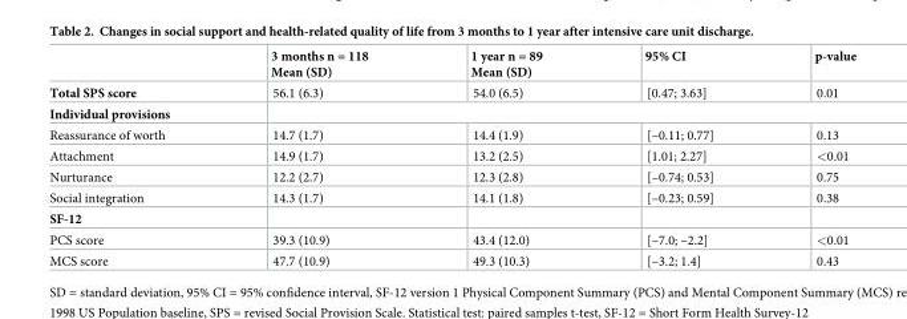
<table><thead><tr><td></td><td>3 months n = 118 Mean (SD)</td><td>1 year n = 89 Mean (SD)</td><td>95% CI</td><td>p-value</td></tr></thead><tbody><tr><td>Total SPS score</td><td>56.1 (6.3)</td><td>54.0 (6.5)</td><td>[0.47; 3.63]</td><td>0.01</td></tr><tr><td colspan="5">Individual provisions</td></tr><tr><td>Reassurance of worth</td><td>14.7 (1.7)</td><td>14.4 (1.9)</td><td>[–0.11; 0.77]</td><td>0.13</td></tr><tr><td>Attachment</td><td>14.9 (1.7)</td><td>13.2 (2.5)</td><td>[1.01; 2.27]</td><td>&lt;0.01</td></tr><tr><td>Nurturance</td><td>12.2 (2.7)</td><td>12.3 (2.8)</td><td>[–0.74; 0.53]</td><td>0.75</td></tr><tr><td>Social integration</td><td>14.3 (1.7)</td><td>14.1 (1.8)</td><td>[–0.23; 0.59]</td><td>0.38</td></tr><tr><td colspan="5">SF-12</td></tr><tr><td>PCS score</td><td>39.3 (10.9)</td><td>43.4 (12.0)</td><td>[–7.0; –2.2]</td><td>&lt;0.01</td></tr><tr><td>MCS score</td><td>47.7 (10.9)</td><td>49.3 (10.3)</td><td>[–3.2; 1.4]</td><td>0.43</td></tr></tbody></table>